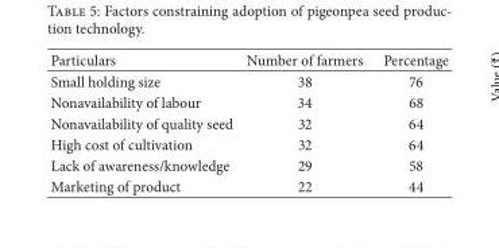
<table><thead><tr><td>Particulars</td><td>Number of farmers</td><td>Percentage</td></tr></thead><tbody><tr><td>Small holding size</td><td>38</td><td>76</td></tr><tr><td>Nonavailability of labour</td><td>34</td><td>68</td></tr><tr><td>Nonavailability of quality seed</td><td>32</td><td>64</td></tr><tr><td>High cost of cultivation</td><td>32</td><td>64</td></tr><tr><td>Lack of awareness/knowledge</td><td>29</td><td>58</td></tr><tr><td>Marketing of product</td><td>22</td><td>44</td></tr></tbody></table>